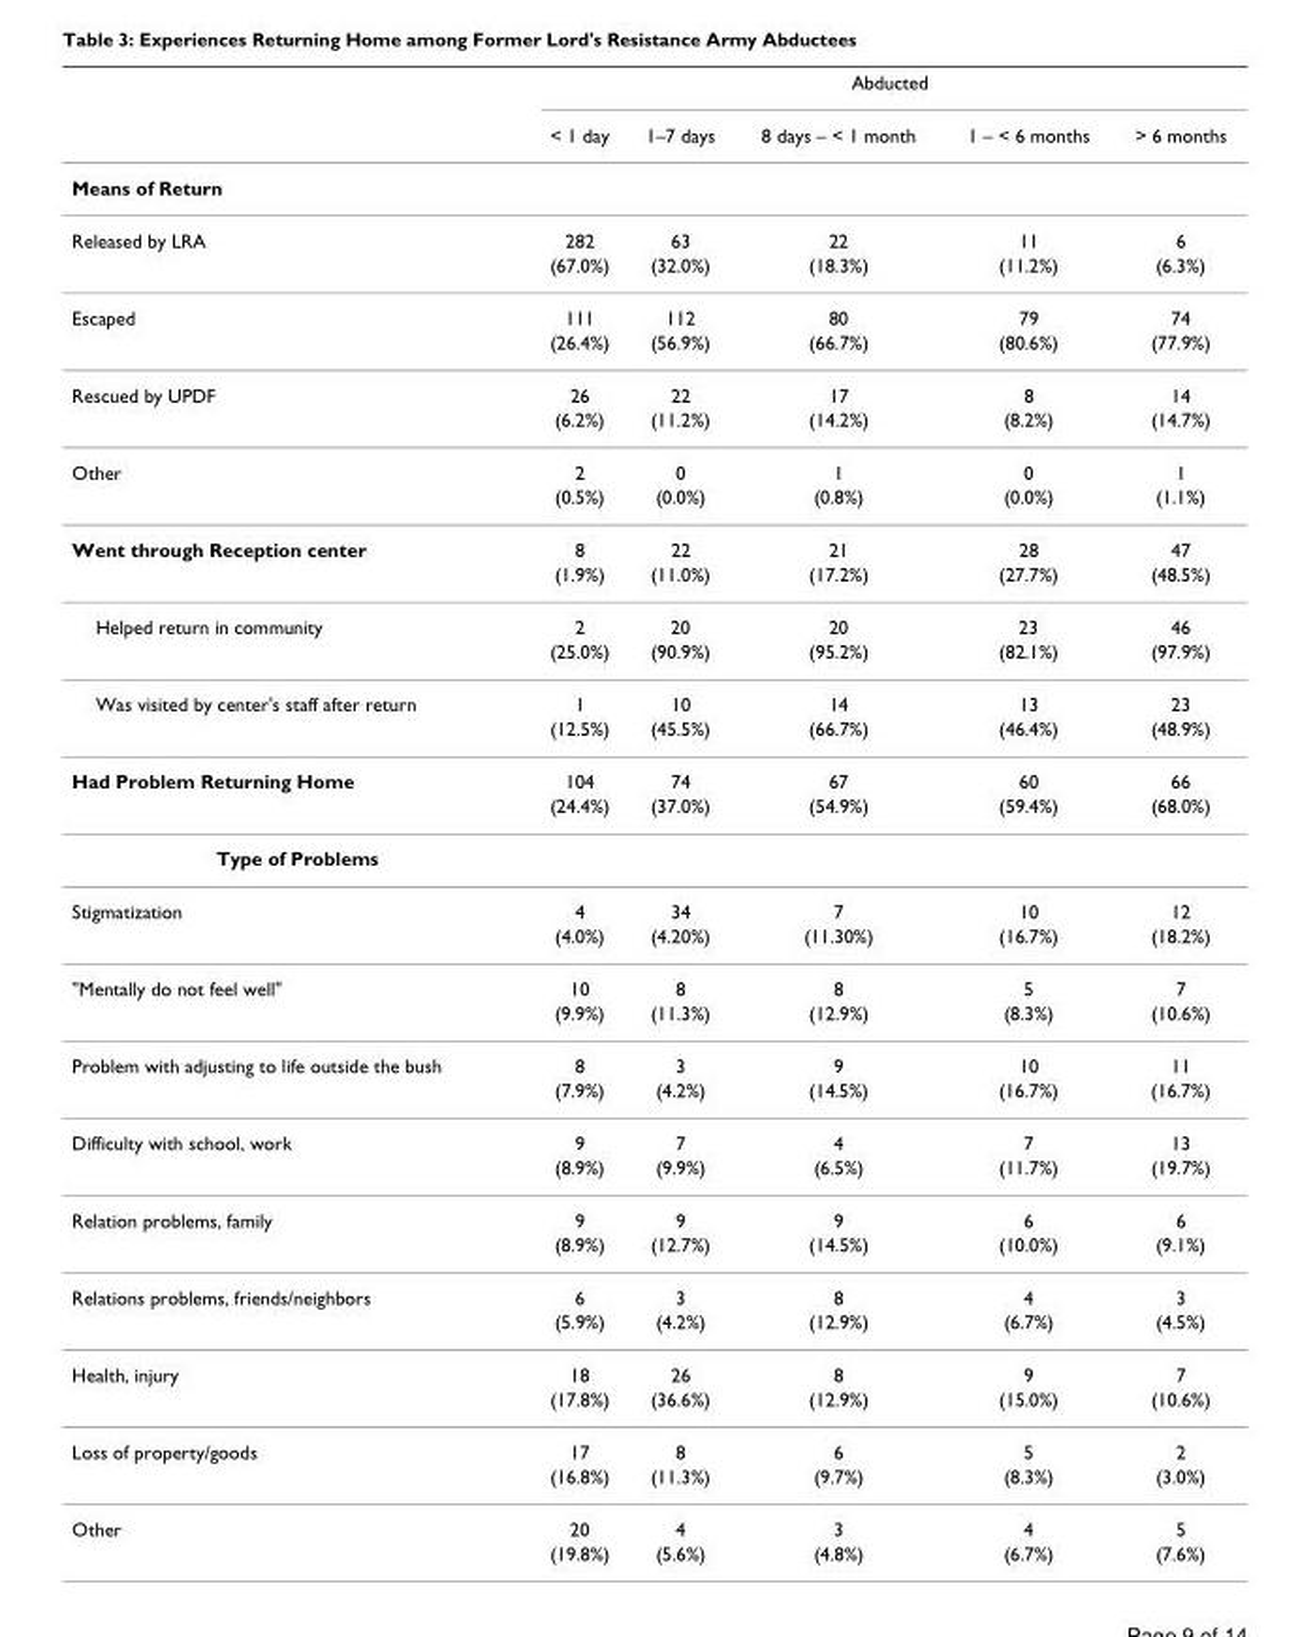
<table><thead><tr><td rowspan="2"></td><td colspan="5">Abducted</td></tr><tr><td>&lt; 1 day</td><td>1–7 days</td><td>8 days – &lt; 1 month</td><td>1 – &lt; 6 months</td><td>&gt; 6 months</td></tr></thead><tbody><tr><td colspan="6">Means of Return</td></tr><tr><td rowspan="2">Released by LRA</td><td>282</td><td>63</td><td>22</td><td>11</td><td>6</td></tr><tr><td>(67.0%)</td><td>(32.0%)</td><td>(18.3%)</td><td>(11.2%)</td><td>(6.3%)</td></tr><tr><td rowspan="2">Escaped</td><td>111</td><td>112</td><td>80</td><td>79</td><td>74</td></tr><tr><td>(26.4%)</td><td>(56.9%)</td><td>(66.7%)</td><td>(80.6%)</td><td>(77.9%)</td></tr><tr><td rowspan="2">Rescued by UPDF</td><td>26</td><td>22</td><td>17</td><td>8</td><td>14</td></tr><tr><td>(6.2%)</td><td>(11.2%)</td><td>(14.2%)</td><td>(8.2%)</td><td>(14.7%)</td></tr><tr><td rowspan="2">Other</td><td>2</td><td>0</td><td>1</td><td>0</td><td>1</td></tr><tr><td>(0.5%)</td><td>(0.0%)</td><td>(0.8%)</td><td>(0.0%)</td><td>(1.1%)</td></tr><tr><td rowspan="2">Went through Reception center</td><td>8</td><td>22</td><td>21</td><td>28</td><td>47</td></tr><tr><td>(1.9%)</td><td>(11.0%)</td><td>(17.2%)</td><td>(27.7%)</td><td>(48.5%)</td></tr><tr><td rowspan="2">Helped return in community</td><td>2</td><td>20</td><td>20</td><td>23</td><td>46</td></tr><tr><td>(25.0%)</td><td>(90.9%)</td><td>(95.2%)</td><td>(82.1%)</td><td>(97.9%)</td></tr><tr><td rowspan="2">Was visited by center&#x27;s staff after return</td><td>1</td><td>10</td><td>14</td><td>13</td><td>23</td></tr><tr><td>(12.5%)</td><td>(45.5%)</td><td>(66.7%)</td><td>(46.4%)</td><td>(48.9%)</td></tr><tr><td rowspan="2">Had Problem Returning Home</td><td>104</td><td>74</td><td>67</td><td>60</td><td>66</td></tr><tr><td>(24.4%)</td><td>(37.0%)</td><td>(54.9%)</td><td>(59.4%)</td><td>(68.0%)</td></tr><tr><td colspan="6">Type of Problems</td></tr><tr><td rowspan="2">Stigmatization</td><td>4</td><td>34</td><td>7</td><td>10</td><td>12</td></tr><tr><td>(4.0%)</td><td>(4.20%)</td><td>(11.30%)</td><td>(16.7%)</td><td>(18.2%)</td></tr><tr><td rowspan="2">&quot;Mentally do not feel well&quot;</td><td>10</td><td>8</td><td>8</td><td>5</td><td>7</td></tr><tr><td>(9.9%)</td><td>(11.3%)</td><td>(12.9%)</td><td>(8.3%)</td><td>(10.6%)</td></tr><tr><td rowspan="2">Problem with adjusting to life outside the bush</td><td>8</td><td>3</td><td>9</td><td>10</td><td>11</td></tr><tr><td>(7.9%)</td><td>(4.2%)</td><td>(14.5%)</td><td>(16.7%)</td><td>(16.7%)</td></tr><tr><td rowspan="2">Difficulty with school, work</td><td>9</td><td>7</td><td>4</td><td>7</td><td>13</td></tr><tr><td>(8.9%)</td><td>(9.9%)</td><td>(6.5%)</td><td>(11.7%)</td><td>(19.7%)</td></tr><tr><td rowspan="2">Relation problems, family</td><td>9</td><td>9</td><td>9</td><td>6</td><td>6</td></tr><tr><td>(8.9%)</td><td>(12.7%)</td><td>(14.5%)</td><td>(10.0%)</td><td>(9.1%)</td></tr><tr><td rowspan="2">Relations problems, friends/neighbors</td><td>6</td><td>3</td><td>8</td><td>4</td><td>3</td></tr><tr><td>(5.9%)</td><td>(4.2%)</td><td>(12.9%)</td><td>(6.7%)</td><td>(4.5%)</td></tr><tr><td rowspan="2">Health, injury</td><td>18</td><td>26</td><td>8</td><td>9</td><td>7</td></tr><tr><td>(17.8%)</td><td>(36.6%)</td><td>(12.9%)</td><td>(15.0%)</td><td>(10.6%)</td></tr><tr><td rowspan="2">Loss of property/goods</td><td>17</td><td>8</td><td>6</td><td>5</td><td>2</td></tr><tr><td>(16.8%)</td><td>(11.3%)</td><td>(9.7%)</td><td>(8.3%)</td><td>(3.0%)</td></tr><tr><td rowspan="2">Other</td><td>20</td><td>4</td><td>3</td><td>4</td><td>5</td></tr><tr><td>(19.8%)</td><td>(5.6%)</td><td>(4.8%)</td><td>(6.7%)</td><td>(7.6%)</td></tr></tbody></table>